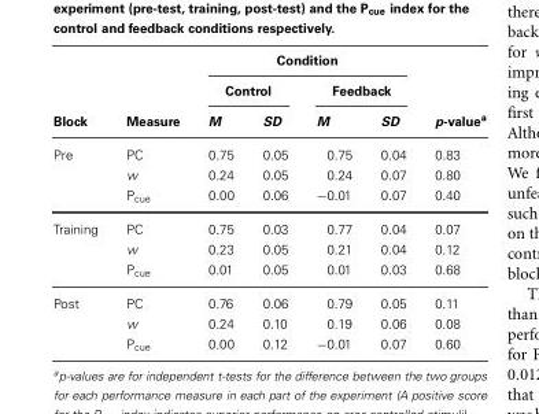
<table><thead><tr><td rowspan="3">Block</td><td rowspan="3">Measure</td><td colspan="4">Condition</td><td rowspan="3">p-value<sup>a</sup></td></tr><tr><td colspan="2">Control</td><td colspan="2">Feedback</td></tr><tr><td>M</td><td>SD</td><td>M</td><td>SD</td></tr></thead><tbody><tr><td rowspan="3">Pre</td><td>PC</td><td>0.75</td><td>0.05</td><td>0.75</td><td>0.04</td><td>0.83</td></tr><tr><td>w</td><td>0.24</td><td>0.05</td><td>0.24</td><td>0.07</td><td>0.80</td></tr><tr><td>P<sub>cue</sub></td><td>0.00</td><td>0.06</td><td>−0.01</td><td>0.07</td><td>0.40</td></tr><tr><td rowspan="3">Training</td><td>PC</td><td>0.75</td><td>0.03</td><td>0.77</td><td>0.04</td><td>0.07</td></tr><tr><td>w</td><td>0.23</td><td>0.05</td><td>0.21</td><td>0.04</td><td>0.12</td></tr><tr><td>P<sub>cue</sub></td><td>0.01</td><td>0.05</td><td>0.01</td><td>0.03</td><td>0.68</td></tr><tr><td rowspan="3">Post</td><td>PC</td><td>0.76</td><td>0.06</td><td>0.79</td><td>0.05</td><td>0.11</td></tr><tr><td>w</td><td>0.24</td><td>0.10</td><td>0.19</td><td>0.06</td><td>0.08</td></tr><tr><td>P<sub>cue</sub></td><td>0.00</td><td>0.12</td><td>−0.01</td><td>0.07</td><td>0.60</td></tr></tbody></table>